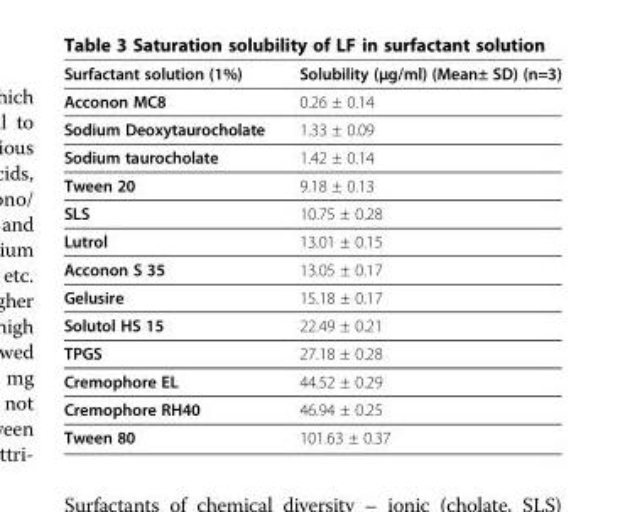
<table><thead><tr><td>Surfactant solution (1%)</td><td>Solubility (μg/ml) (Mean± SD) (n=3)</td></tr></thead><tbody><tr><td>Acconon MC8</td><td>0.26 ± 0.14</td></tr><tr><td>Sodium Deoxytaurocholate</td><td>1.33 ± 0.09</td></tr><tr><td>Sodium taurocholate</td><td>1.42 ± 0.14</td></tr><tr><td>Tween 20</td><td>9.18 ± 0.13</td></tr><tr><td>SLS</td><td>10.75 ± 0.28</td></tr><tr><td>Lutrol</td><td>13.01 ± 0.15</td></tr><tr><td>Acconon S 35</td><td>13.05 ± 0.17</td></tr><tr><td>Gelusire</td><td>15.18 ± 0.17</td></tr><tr><td>Solutol HS 15</td><td>22.49 ± 0.21</td></tr><tr><td>TPGS</td><td>27.18 ± 0.28</td></tr><tr><td>Cremophore EL</td><td>44.52 ± 0.29</td></tr><tr><td>Cremophore RH40</td><td>46.94 ± 0.25</td></tr><tr><td>Tween 80</td><td>101.63 ± 0.37</td></tr></tbody></table>